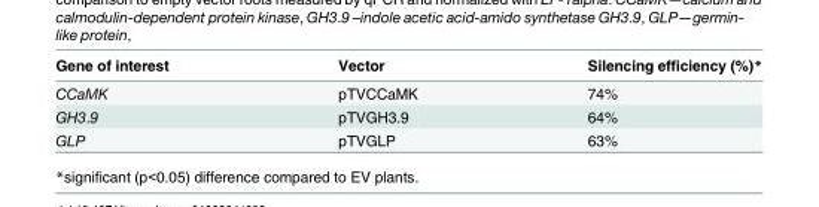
<table><thead><tr><td>Gene of interest</td><td>Vector</td><td>Silencing efficiency (%)*</td></tr></thead><tbody><tr><td>CCaMK</td><td>pTVCCaMK</td><td>74%</td></tr><tr><td>GH3.9</td><td>pTVGH3.9</td><td>64%</td></tr><tr><td>GLP</td><td>pTVGLP</td><td>63%</td></tr></tbody></table>